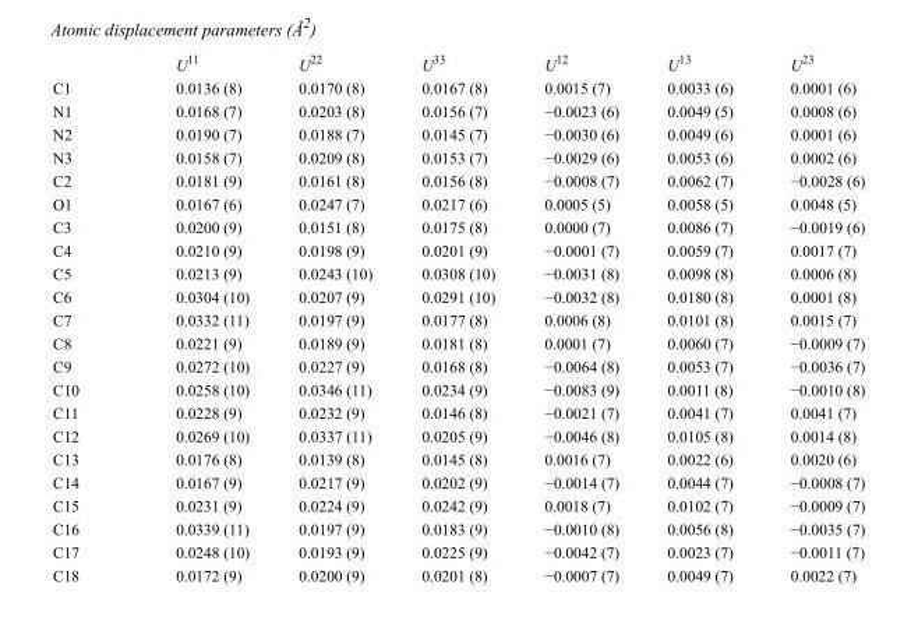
<table><thead><tr><td></td><td>U<sup>11</sup></td><td>U<sup>22</sup></td><td>U<sup>33</sup></td><td>U<sup>12</sup></td><td>U<sup>13</sup></td><td>U<sup>23</sup></td></tr></thead><tbody><tr><td>C1</td><td>0.0136 (8)</td><td>0.0170 (8)</td><td>0.0167 (8)</td><td>0.0015 (7)</td><td>0.0033 (6)</td><td>0.0001 (6)</td></tr><tr><td>N1</td><td>0.0168 (7)</td><td>0.0203 (8)</td><td>0.0156 (7)</td><td>−0.0023 (6)</td><td>0.0049 (5)</td><td>0.0008 (6)</td></tr><tr><td>N2</td><td>0.0190 (7)</td><td>0.0188 (7)</td><td>0.0145 (7)</td><td>−0.0030 (6)</td><td>0.0049 (6)</td><td>0.0001 (6)</td></tr><tr><td>N3</td><td>0.0158 (7)</td><td>0.0209 (8)</td><td>0.0153 (7)</td><td>−0.0029 (6)</td><td>0.0053 (6)</td><td>0.0002 (6)</td></tr><tr><td>C2</td><td>0.0181 (9)</td><td>0.0161 (8)</td><td>0.0156 (8)</td><td>−0.0008 (7)</td><td>0.0062 (7)</td><td>−0.0028 (6)</td></tr><tr><td>O1</td><td>0.0167 (6)</td><td>0.0247 (7)</td><td>0.0217 (6)</td><td>0.0005 (5)</td><td>0.0058 (5)</td><td>0.0048 (5)</td></tr><tr><td>C3</td><td>0.0200 (9)</td><td>0.0151 (8)</td><td>0.0175 (8)</td><td>0.0000 (7)</td><td>0.0086 (7)</td><td>−0.0019 (6)</td></tr><tr><td>C4</td><td>0.0210 (9)</td><td>0.0198 (9)</td><td>0.0201 (9)</td><td>−0.0001 (7)</td><td>0.0059 (7)</td><td>0.0017 (7)</td></tr><tr><td>C5</td><td>0.0213 (9)</td><td>0.0243 (10)</td><td>0.0308 (10)</td><td>−0.0031 (8)</td><td>0.0098 (8)</td><td>0.0006 (8)</td></tr><tr><td>C6</td><td>0.0304 (10)</td><td>0.0207 (9)</td><td>0.0291 (10)</td><td>−0.0032 (8)</td><td>0.0180 (8)</td><td>0.0001 (8)</td></tr><tr><td>C7</td><td>0.0332 (11)</td><td>0.0197 (9)</td><td>0.0177 (8)</td><td>0.0006 (8)</td><td>0.0101 (8)</td><td>0.0015 (7)</td></tr><tr><td>C8</td><td>0.0221 (9)</td><td>0.0189 (9)</td><td>0.0181 (8)</td><td>0.0001 (7)</td><td>0.0060 (7)</td><td>−0.0009 (7)</td></tr><tr><td>C9</td><td>0.0272 (10)</td><td>0.0227 (9)</td><td>0.0168 (8)</td><td>−0.0064 (8)</td><td>0.0053 (7)</td><td>−0.0036 (7)</td></tr><tr><td>C10</td><td>0.0258 (10)</td><td>0.0346 (11)</td><td>0.0234 (9)</td><td>−0.0083 (9)</td><td>0.0011 (8)</td><td>−0.0010 (8)</td></tr><tr><td>C11</td><td>0.0228 (9)</td><td>0.0232 (9)</td><td>0.0146 (8)</td><td>−0.0021 (7)</td><td>0.0041 (7)</td><td>0.0041 (7)</td></tr><tr><td>C12</td><td>0.0269 (10)</td><td>0.0337 (11)</td><td>0.0205 (9)</td><td>−0.0046 (8)</td><td>0.0105 (8)</td><td>0.0014 (8)</td></tr><tr><td>C13</td><td>0.0176 (8)</td><td>0.0139 (8)</td><td>0.0145 (8)</td><td>0.0016 (7)</td><td>0.0022 (6)</td><td>0.0020 (6)</td></tr><tr><td>C14</td><td>0.0167 (9)</td><td>0.0217 (9)</td><td>0.0202 (9)</td><td>−0.0014 (7)</td><td>0.0044 (7)</td><td>−0.0008 (7)</td></tr><tr><td>C15</td><td>0.0231 (9)</td><td>0.0224 (9)</td><td>0.0242 (9)</td><td>0.0018 (7)</td><td>0.0102 (7)</td><td>−0.0009 (7)</td></tr><tr><td>C16</td><td>0.0339 (11)</td><td>0.0197 (9)</td><td>0.0183 (9)</td><td>−0.0010 (8)</td><td>0.0056 (8)</td><td>−0.0035 (7)</td></tr><tr><td>C17</td><td>0.0248 (10)</td><td>0.0193 (9)</td><td>0.0225 (9)</td><td>−0.0042 (7)</td><td>0.0023 (7)</td><td>−0.0011 (7)</td></tr><tr><td>C18</td><td>0.0172 (9)</td><td>0.0200 (9)</td><td>0.0201 (8)</td><td>−0.0007 (7)</td><td>0.0049 (7)</td><td>0.0022 (7)</td></tr></tbody></table>